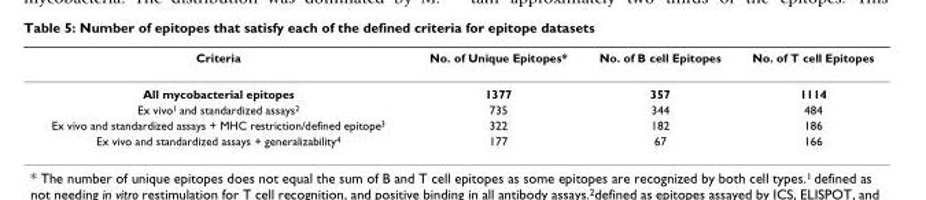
<table><thead><tr><td>Criteria</td><td>No. of Unique Epitopes*</td><td>No. of B cell Epitopes</td><td>No. of T cell Epitopes</td></tr></thead><tbody><tr><td>All mycobacterial epitopes</td><td>1377</td><td>357</td><td>1114</td></tr><tr><td>Ex vivo<sup>1</sup> and standardized assays<sup>2</sup></td><td>735</td><td>344</td><td>484</td></tr><tr><td>Ex vivo and standardized assays + MHC restriction/defined epitope<sup>3</sup></td><td>322</td><td>182</td><td>186</td></tr><tr><td>Ex vivo and standardized assays + generalizability<sup>4</sup></td><td>177</td><td>67</td><td>166</td></tr></tbody></table>